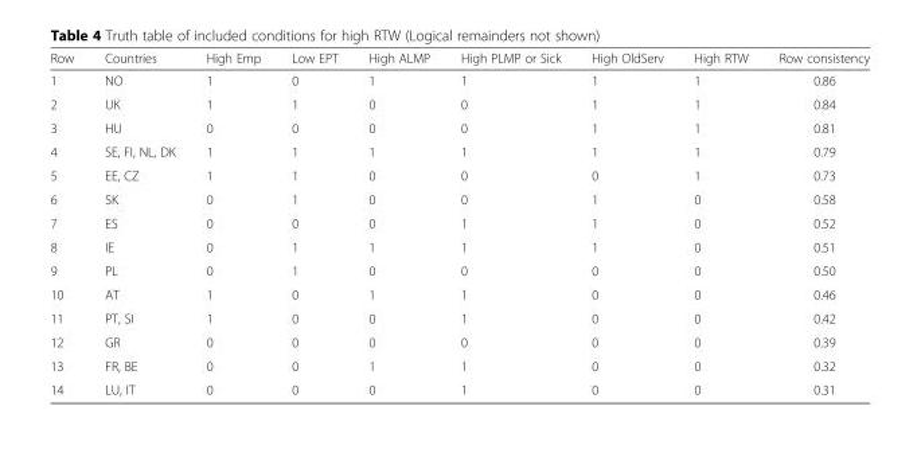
<table><thead><tr><td>Row</td><td>Countries</td><td>High Emp</td><td>Low EPT</td><td>High ALMP</td><td>High PLMP or Sick</td><td>High OldServ</td><td>High RTW</td><td>Row consistency</td></tr></thead><tbody><tr><td>1</td><td>NO</td><td>1</td><td>0</td><td>1</td><td>1</td><td>1</td><td>1</td><td>0.86</td></tr><tr><td>2</td><td>UK</td><td>1</td><td>1</td><td>0</td><td>0</td><td>1</td><td>1</td><td>0.84</td></tr><tr><td>3</td><td>HU</td><td>0</td><td>0</td><td>0</td><td>0</td><td>1</td><td>1</td><td>0.81</td></tr><tr><td>4</td><td>SE, FI, NL, DK</td><td>1</td><td>1</td><td>1</td><td>1</td><td>1</td><td>1</td><td>0.79</td></tr><tr><td>5</td><td>EE, CZ</td><td>1</td><td>1</td><td>0</td><td>0</td><td>0</td><td>1</td><td>0.73</td></tr><tr><td>6</td><td>SK</td><td>0</td><td>1</td><td>0</td><td>0</td><td>1</td><td>0</td><td>0.58</td></tr><tr><td>7</td><td>ES</td><td>0</td><td>0</td><td>0</td><td>1</td><td>1</td><td>0</td><td>0.52</td></tr><tr><td>8</td><td>IE</td><td>0</td><td>1</td><td>1</td><td>1</td><td>1</td><td>0</td><td>0.51</td></tr><tr><td>9</td><td>PL</td><td>0</td><td>1</td><td>0</td><td>0</td><td>0</td><td>0</td><td>0.50</td></tr><tr><td>10</td><td>AT</td><td>1</td><td>0</td><td>1</td><td>1</td><td>0</td><td>0</td><td>0.46</td></tr><tr><td>11</td><td>PT, SI</td><td>1</td><td>0</td><td>0</td><td>1</td><td>0</td><td>0</td><td>0.42</td></tr><tr><td>12</td><td>GR</td><td>0</td><td>0</td><td>0</td><td>0</td><td>0</td><td>0</td><td>0.39</td></tr><tr><td>13</td><td>FR, BE</td><td>0</td><td>0</td><td>1</td><td>1</td><td>0</td><td>0</td><td>0.32</td></tr><tr><td>14</td><td>LU, IT</td><td>0</td><td>0</td><td>0</td><td>1</td><td>0</td><td>0</td><td>0.31</td></tr></tbody></table>